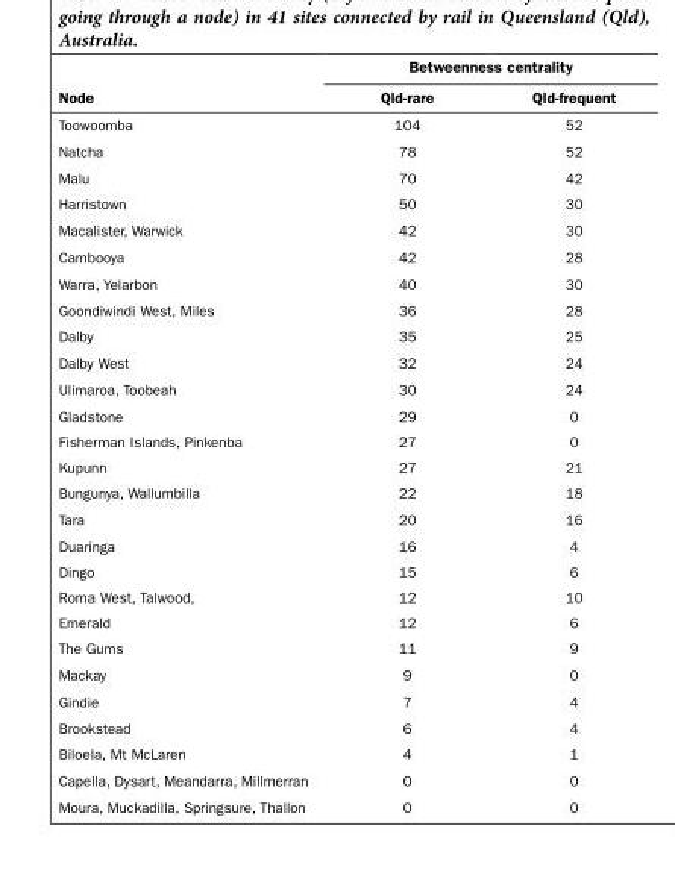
<table><thead><tr><td rowspan="2">Node</td><td colspan="2">Betweenness centrality</td></tr><tr><td>Qld-rare</td><td>Qld-frequent</td></tr></thead><tbody><tr><td>Toowoomba</td><td>104</td><td>52</td></tr><tr><td>Natcha</td><td>78</td><td>52</td></tr><tr><td>Malu</td><td>70</td><td>42</td></tr><tr><td>Harristown</td><td>50</td><td>30</td></tr><tr><td>Macalister, Warwick</td><td>42</td><td>30</td></tr><tr><td>Cambooya</td><td>42</td><td>28</td></tr><tr><td>Warra, Yelarbon</td><td>40</td><td>30</td></tr><tr><td>Goondiwindi West, Miles</td><td>36</td><td>28</td></tr><tr><td>Dalby</td><td>35</td><td>25</td></tr><tr><td>Dalby West</td><td>32</td><td>24</td></tr><tr><td>Ulimaroa, Toobeah</td><td>30</td><td>24</td></tr><tr><td>Gladstone</td><td>29</td><td>0</td></tr><tr><td>Fisherman Islands, Pinkenba</td><td>27</td><td>0</td></tr><tr><td>Kupunn</td><td>27</td><td>21</td></tr><tr><td>Bungunya, Wallumbilla</td><td>22</td><td>18</td></tr><tr><td>Tara</td><td>20</td><td>16</td></tr><tr><td>Duaringa</td><td>16</td><td>4</td></tr><tr><td>Dingo</td><td>15</td><td>6</td></tr><tr><td>Roma West, Talwood,</td><td>12</td><td>10</td></tr><tr><td>Emerald</td><td>12</td><td>6</td></tr><tr><td>The Gums</td><td>11</td><td>9</td></tr><tr><td>Mackay</td><td>9</td><td>0</td></tr><tr><td>Gindie</td><td>7</td><td>4</td></tr><tr><td>Brookstead</td><td>6</td><td>4</td></tr><tr><td>Biloela, Mt McLaren</td><td>4</td><td>1</td></tr><tr><td>Capella, Dysart, Meandarra, Millmerran</td><td>0</td><td>0</td></tr><tr><td>Moura, Muckadilla, Springsure, Thallon</td><td>0</td><td>0</td></tr></tbody></table>